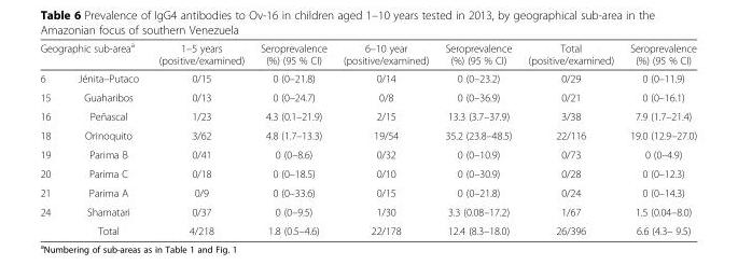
<table><thead><tr><td colspan="2">Geographic sub-area<sup>a</sup></td><td rowspan="2">1–5 years (positive/examined) 0/15</td><td rowspan="2">Seroprevalence (%) (95 % CI) 0 (0–21.8)</td><td rowspan="2">6–10 year (positive/examined) 0/14</td><td rowspan="2">Seroprevalence (%) (95 % CI) 0 (0–23.2)</td><td rowspan="2">Total (positive/examined) 0/29</td><td rowspan="2">Seroprevalence (%) (95 % CI) 0 (0–11.9)</td></tr><tr><td>6</td><td>Jénita–Putaco</td></tr></thead><tbody><tr><td>15</td><td>Guaharibos</td><td>0/13</td><td>0 (0–24.7)</td><td>0/8</td><td>0 (0–36.9)</td><td>0/21</td><td>0 (0–16.1)</td></tr><tr><td>16</td><td>Peñascal</td><td>1/23</td><td>4.3 (0.1–21.9)</td><td>2/15</td><td>13.3 (3.7–37.9)</td><td>3/38</td><td>7.9 (1.7–21.4)</td></tr><tr><td>18</td><td>Orinoquito</td><td>3/62</td><td>4.8 (1.7–13.3)</td><td>19/54</td><td>35.2 (23.8–48.5)</td><td>22/116</td><td>19.0 (12.9–27.0)</td></tr><tr><td>19</td><td>Parima B</td><td>0/41</td><td>0 (0–8.6)</td><td>0/32</td><td>0 (0–10.9)</td><td>0/73</td><td>0 (0–4.9)</td></tr><tr><td>20</td><td>Parima C</td><td>0/18</td><td>0 (0–18.5)</td><td>0/10</td><td>0 (0–30.9)</td><td>0/28</td><td>0 (0–12.3)</td></tr><tr><td>21</td><td>Parima A</td><td>0/9</td><td>0 (0–33.6)</td><td>0/15</td><td>0 (0–21.8)</td><td>0/24</td><td>0 (0–14.3)</td></tr><tr><td rowspan="2">24</td><td>Shamatari</td><td>0/37</td><td>0 (0–9.5)</td><td>1/30</td><td>3.3 (0.08–17.2)</td><td>1/67</td><td>1.5 (0.04–8.0)</td></tr><tr><td>Total</td><td>4/218</td><td>1.8 (0.5–4.6)</td><td>22/178</td><td>12.4 (8.3–18.0)</td><td>26/396</td><td>6.6 (4.3– 9.5)</td></tr></tbody></table>